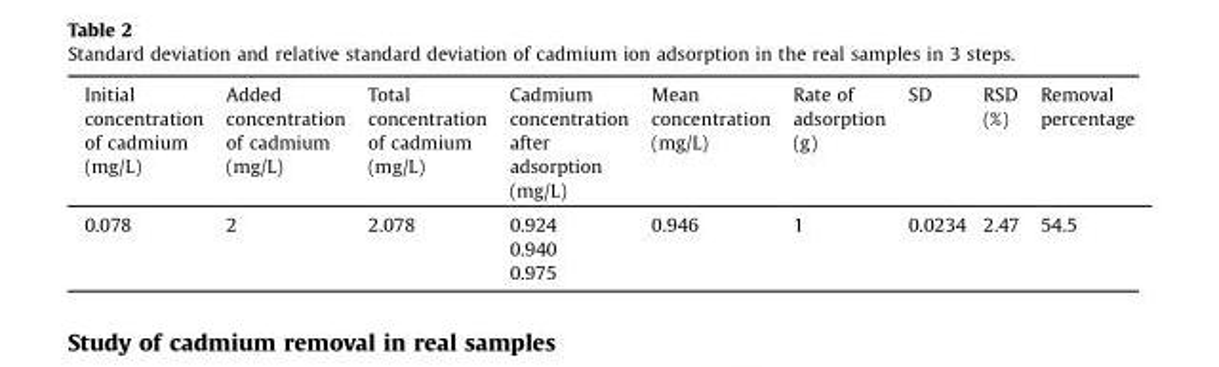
<table><thead><tr><td>Initial concentration of cadmium (mg/L)</td><td>Added concentration of cadmium (mg/L)</td><td>Total concentration of cadmium (mg/L)</td><td>Cadmium concentration after adsorption (mg/L)</td><td>Mean concentration (mg/L)</td><td>Rate of adsorption (g)</td><td>SD</td><td>RSD (%)</td><td>Removal percentage</td></tr></thead><tbody><tr><td rowspan="3">0.078</td><td rowspan="3">2</td><td rowspan="3">2.078</td><td>0.924</td><td rowspan="3">0.946</td><td rowspan="3">1</td><td rowspan="3">0.0234</td><td rowspan="3">2.47</td><td rowspan="3">54.5</td></tr><tr><td>0.940</td></tr><tr><td>0.975</td></tr></tbody></table>